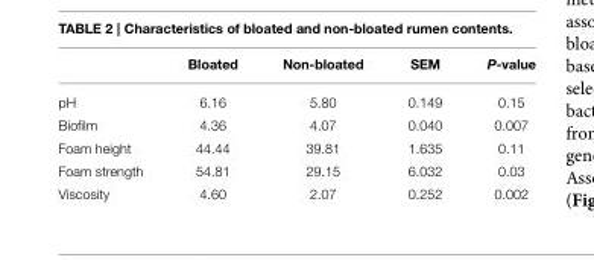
<table><thead><tr><td></td><td>Bloated</td><td>Non-bloated</td><td>SEM</td><td>P-value</td></tr></thead><tbody><tr><td>pH</td><td>6.16</td><td>5.80</td><td>0.149</td><td>0.15</td></tr><tr><td>Biofilm</td><td>4.36</td><td>4.07</td><td>0.040</td><td>0.007</td></tr><tr><td>Foam height</td><td>44.44</td><td>39.81</td><td>1.635</td><td>0.11</td></tr><tr><td>Foam strength</td><td>54.81</td><td>29.15</td><td>6.032</td><td>0.03</td></tr><tr><td>Viscosity</td><td>4.60</td><td>2.07</td><td>0.252</td><td>0.002</td></tr></tbody></table>